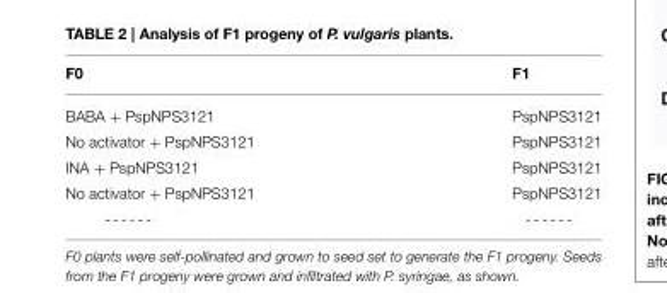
<table><thead><tr><td>F0</td><td>F1</td></tr></thead><tbody><tr><td>BABA + PspNPS3121</td><td>PspNPS3121</td></tr><tr><td>No activator + PspNPS3121</td><td>PspNPS3121</td></tr><tr><td>INA + PspNPS3121</td><td>PspNPS3121</td></tr><tr><td>No activator + PspNPS3121</td><td>PspNPS3121</td></tr><tr><td>- - - - - -</td><td>- - - - - -</td></tr></tbody></table>